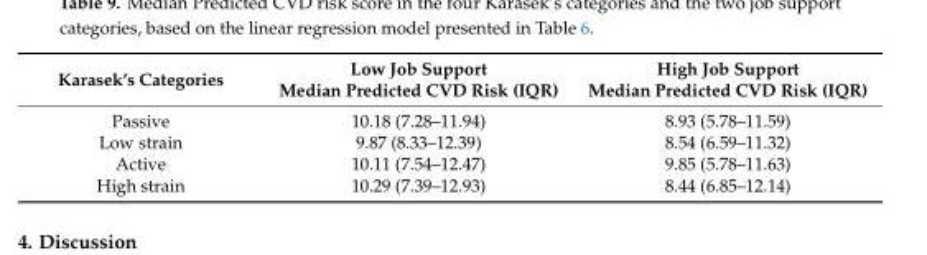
<table><thead><tr><td>Karasek’s Categories</td><td>Low Job Support Median Predicted CVD Risk (IQR)</td><td>High Job Support Median Predicted CVD Risk (IQR)</td></tr></thead><tbody><tr><td>Passive</td><td>10.18 (7.28–11.94)</td><td>8.93 (5.78–11.59)</td></tr><tr><td>Low strain</td><td>9.87 (8.33–12.39)</td><td>8.54 (6.59–11.32)</td></tr><tr><td>Active</td><td>10.11 (7.54–12.47)</td><td>9.85 (5.78–11.63)</td></tr><tr><td>High strain</td><td>10.29 (7.39–12.93)</td><td>8.44 (6.85–12.14)</td></tr></tbody></table>